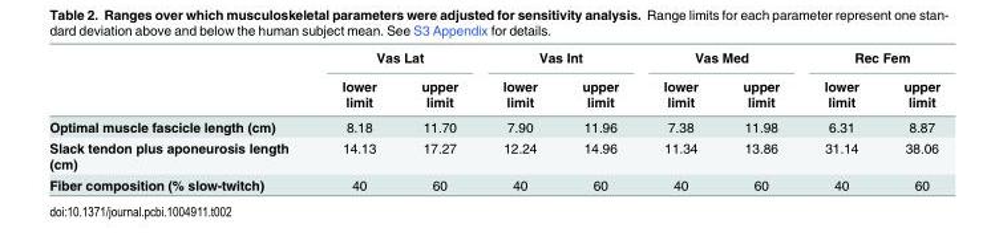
<table><thead><tr><td rowspan="2"></td><td colspan="2">Vas Lat</td><td colspan="2">Vas Int</td><td colspan="2">Vas Med</td><td colspan="2">Rec Fem</td></tr><tr><td>lower limit</td><td>upper limit</td><td>lower limit</td><td>upper limit</td><td>lower limit</td><td>upper limit</td><td>lower limit</td><td>upper limit</td></tr></thead><tbody><tr><td>Optimal muscle fascicle length (cm)</td><td>8.18</td><td>11.70</td><td>7.90</td><td>11.96</td><td>7.38</td><td>11.98</td><td>6.31</td><td>8.87</td></tr><tr><td>Slack tendon plus aponeurosis length (cm)</td><td>14.13</td><td>17.27</td><td>12.24</td><td>14.96</td><td>11.34</td><td>13.86</td><td>31.14</td><td>38.06</td></tr><tr><td>Fiber composition (% slow-twitch)</td><td>40</td><td>60</td><td>40</td><td>60</td><td>40</td><td>60</td><td>40</td><td>60</td></tr></tbody></table>